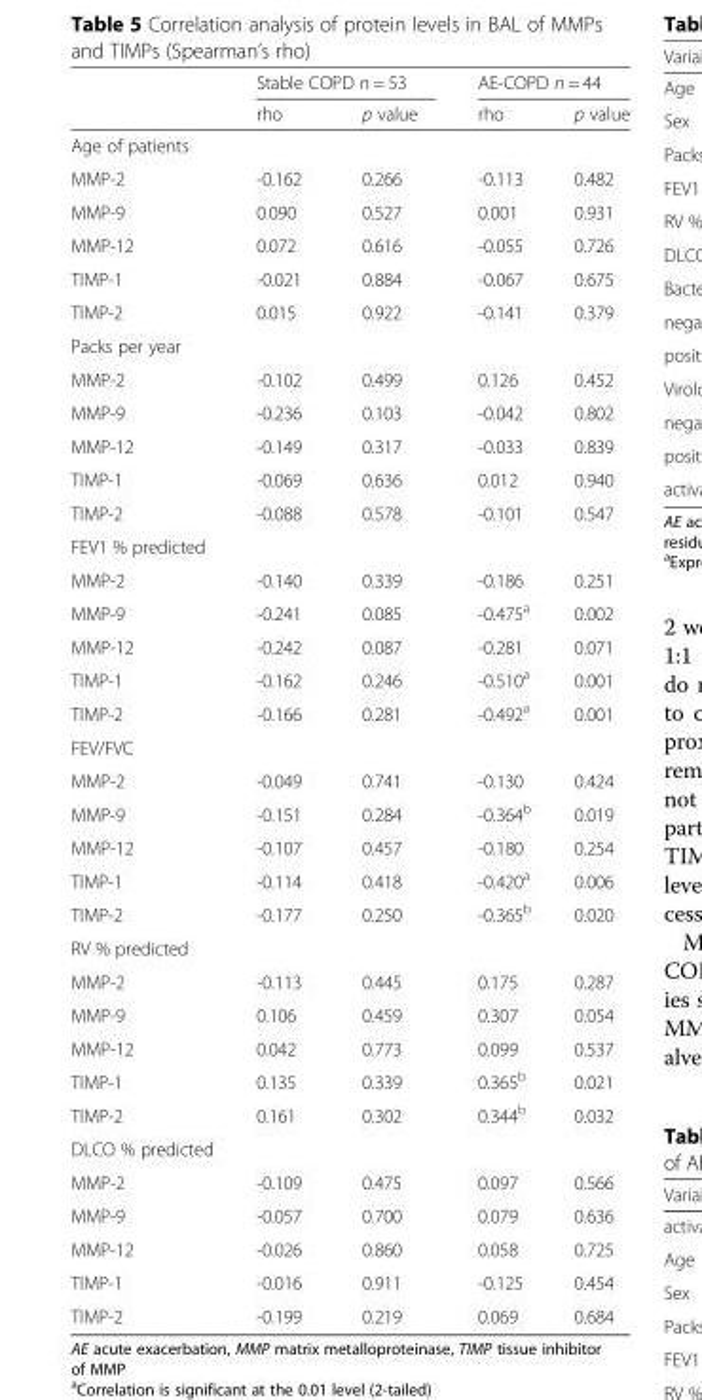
<table><thead><tr><td rowspan="2"></td><td colspan="2">Stable COPD n = 53</td><td colspan="2">AE-COPD n = 44</td></tr><tr><td>rho</td><td>p value</td><td>rho</td><td>p value</td></tr></thead><tbody><tr><td colspan="5">Age of patients</td></tr><tr><td>MMP-2</td><td>-0.162</td><td>0.266</td><td>-0.113</td><td>0.482</td></tr><tr><td>MMP-9</td><td>0.090</td><td>0.527</td><td>0.001</td><td>0.931</td></tr><tr><td>MMP-12</td><td>0.072</td><td>0.616</td><td>-0.055</td><td>0.726</td></tr><tr><td>TIMP-1</td><td>-0.021</td><td>0.884</td><td>-0.067</td><td>0.675</td></tr><tr><td>TIMP-2</td><td>0.015</td><td>0.922</td><td>-0.141</td><td>0.379</td></tr><tr><td colspan="5">Packs per year</td></tr><tr><td>MMP-2</td><td>-0.102</td><td>0.499</td><td>0.126</td><td>0.452</td></tr><tr><td>MMP-9</td><td>-0.236</td><td>0.103</td><td>-0.042</td><td>0.802</td></tr><tr><td>MMP-12</td><td>-0.149</td><td>0.317</td><td>-0.033</td><td>0.839</td></tr><tr><td>TIMP-1</td><td>-0.069</td><td>0.636</td><td>0.012</td><td>0.940</td></tr><tr><td>TIMP-2</td><td>-0.088</td><td>0.578</td><td>-0.101</td><td>0.547</td></tr><tr><td colspan="5">FEV1 % predicted</td></tr><tr><td>MMP-2</td><td>-0.140</td><td>0.339</td><td>-0.186</td><td>0.251</td></tr><tr><td>MMP-9</td><td>-0.241</td><td>0.085</td><td>-0.475<sup>a</sup></td><td>0.002</td></tr><tr><td>MMP-12</td><td>-0.242</td><td>0.087</td><td>-0.281</td><td>0.071</td></tr><tr><td>TIMP-1</td><td>-0.162</td><td>0.246</td><td>-0.510<sup>a</sup></td><td>0.001</td></tr><tr><td>TIMP-2</td><td>-0.166</td><td>0.281</td><td>-0.492<sup>a</sup></td><td>0.001</td></tr><tr><td colspan="5">FEV/FVC</td></tr><tr><td>MMP-2</td><td>-0.049</td><td>0.741</td><td>-0.130</td><td>0.424</td></tr><tr><td>MMP-9</td><td>-0.151</td><td>0.284</td><td>-0.364<sup>b</sup></td><td>0.019</td></tr><tr><td>MMP-12</td><td>-0.107</td><td>0.457</td><td>-0.180</td><td>0.254</td></tr><tr><td>TIMP-1</td><td>-0.114</td><td>0.418</td><td>-0.420<sup>a</sup></td><td>0.006</td></tr><tr><td>TIMP-2</td><td>-0.177</td><td>0.250</td><td>-0.365<sup>b</sup></td><td>0.020</td></tr><tr><td colspan="5">RV % predicted</td></tr><tr><td>MMP-2</td><td>-0.113</td><td>0.445</td><td>0.175</td><td>0.287</td></tr><tr><td>MMP-9</td><td>0.106</td><td>0.459</td><td>0.307</td><td>0.054</td></tr><tr><td>MMP-12</td><td>0.042</td><td>0.773</td><td>0.099</td><td>0.537</td></tr><tr><td>TIMP-1</td><td>0.135</td><td>0.339</td><td>0.365<sup>b</sup></td><td>0.021</td></tr><tr><td>TIMP-2</td><td>0.161</td><td>0.302</td><td>0.344<sup>b</sup></td><td>0.032</td></tr><tr><td colspan="5">DLCO % predicted</td></tr><tr><td>MMP-2</td><td>-0.109</td><td>0.475</td><td>0.097</td><td>0.566</td></tr><tr><td>MMP-9</td><td>-0.057</td><td>0.700</td><td>0.079</td><td>0.636</td></tr><tr><td>MMP-12</td><td>-0.026</td><td>0.860</td><td>0.058</td><td>0.725</td></tr><tr><td>TIMP-1</td><td>-0.016</td><td>0.911</td><td>-0.125</td><td>0.454</td></tr><tr><td>TIMP-2</td><td>-0.199</td><td>0.219</td><td>0.069</td><td>0.684</td></tr></tbody></table>